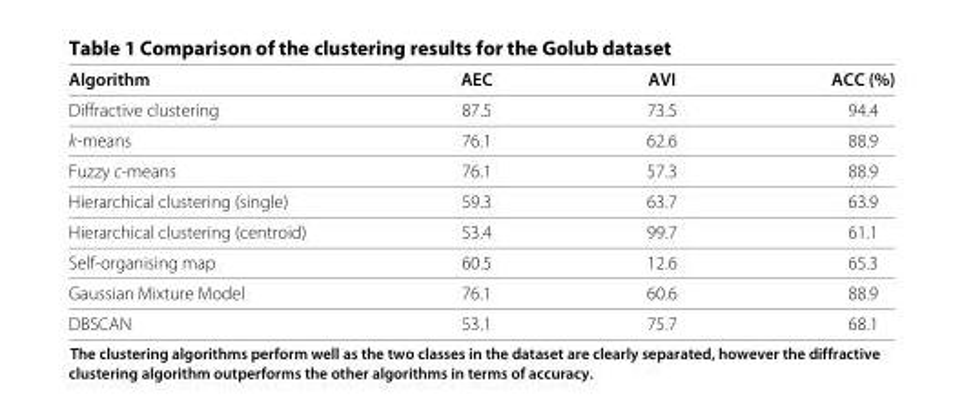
<table><thead><tr><td>Algorithm</td><td>AEC</td><td>AVI</td><td>ACC (%)</td></tr></thead><tbody><tr><td>Diffractive clustering</td><td>87.5</td><td>73.5</td><td>94.4</td></tr><tr><td>k-means</td><td>76.1</td><td>62.6</td><td>88.9</td></tr><tr><td>Fuzzy c-means</td><td>76.1</td><td>57.3</td><td>88.9</td></tr><tr><td>Hierarchical clustering (single)</td><td>59.3</td><td>63.7</td><td>63.9</td></tr><tr><td>Hierarchical clustering (centroid)</td><td>53.4</td><td>99.7</td><td>61.1</td></tr><tr><td>Self-organising map</td><td>60.5</td><td>12.6</td><td>65.3</td></tr><tr><td>Gaussian Mixture Model</td><td>76.1</td><td>60.6</td><td>88.9</td></tr><tr><td>DBSCAN</td><td>53.1</td><td>75.7</td><td>68.1</td></tr></tbody></table>